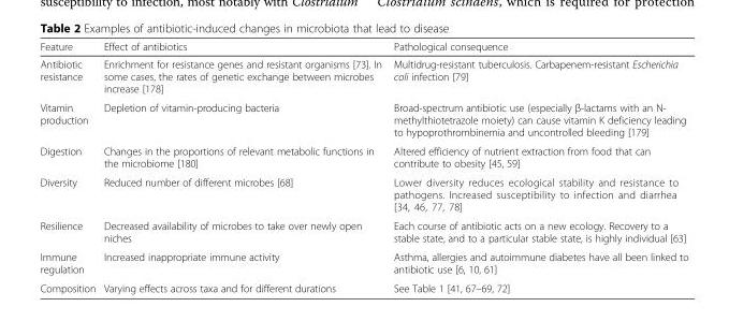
<table><thead><tr><td>Feature</td><td>Effect of antibiotics</td><td>Pathological consequence</td></tr></thead><tbody><tr><td>Antibiotic resistance</td><td>Enrichment for resistance genes and resistant organisms [73]. In some cases, the rates of genetic exchange between microbes increase [178]</td><td>Multidrug-resistant tuberculosis. Carbapenem-resistant Escherichia coli infection [79]</td></tr><tr><td>Vitamin production</td><td>Depletion of vitamin-producing bacteria</td><td>Broad-spectrum antibiotic use (especially β-lactams with an N- methylthiotetrazole moiety) can cause vitamin K deficiency leading to hypoprothrombinemia and uncontrolled bleeding [179]</td></tr><tr><td>Digestion</td><td>Changes in the proportions of relevant metabolic functions in the microbiome [180]</td><td>Altered efficiency of nutrient extraction from food that can contribute to obesity [45, 59]</td></tr><tr><td>Diversity</td><td>Reduced number of different microbes [68]</td><td>Lower diversity reduces ecological stability and resistance to pathogens. Increased susceptibility to infection and diarrhea [34, 46, 77, 78]</td></tr><tr><td>Resilience</td><td>Decreased availability of microbes to take over newly open niches</td><td>Each course of antibiotic acts on a new ecology. Recovery to a stable state, and to a particular stable state, is highly individual [63]</td></tr><tr><td>Immune regulation</td><td>Increased inappropriate immune activity</td><td>Asthma, allergies and autoimmune diabetes have all been linked to antibiotic use [6, 10, 61]</td></tr><tr><td>Composition</td><td>Varying effects across taxa and for different durations</td><td>See Table 1 [41, 67–69, 72]</td></tr></tbody></table>